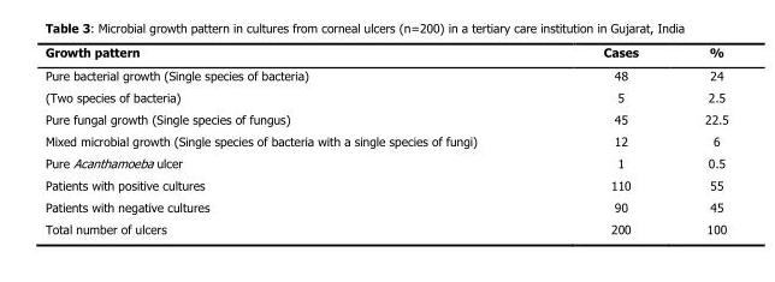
<table><thead><tr><td>Growth pattern</td><td>Cases</td><td>%</td></tr></thead><tbody><tr><td>Pure bacterial growth (Single species of bacteria)</td><td>48</td><td>24</td></tr><tr><td>(Two species of bacteria)</td><td>5</td><td>2.5</td></tr><tr><td>Pure fungal growth (Single species of fungus)</td><td>45</td><td>22.5</td></tr><tr><td>Mixed microbial growth (Single species of bacteria with a single species of fungi)</td><td>12</td><td>6</td></tr><tr><td>Pure Acanthamoeba ulcer</td><td>1</td><td>0.5</td></tr><tr><td>Patients with positive cultures</td><td>110</td><td>55</td></tr><tr><td>Patients with negative cultures</td><td>90</td><td>45</td></tr><tr><td>Total number of ulcers</td><td>200</td><td>100</td></tr></tbody></table>